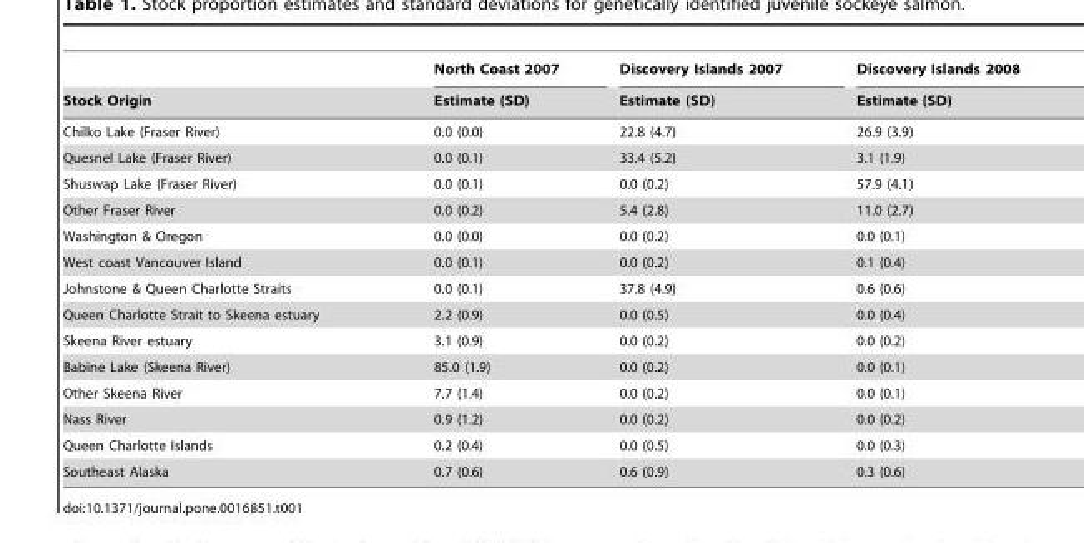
<table><thead><tr><td rowspan="2">Stock Origin</td><td rowspan="2">North Coast 2007 Estimate (SD)</td><td rowspan="2">Discovery Islands 2007 Estimate (SD)</td><td rowspan="2">Discovery Islands 2008 Estimate (SD)</td></tr><tr></tr></thead><tbody><tr><td>Chilko Lake (Fraser River)</td><td>0.0 (0.0)</td><td>22.8 (4.7)</td><td>26.9 (3.9)</td></tr><tr><td>Quesnel Lake (Fraser River)</td><td>0.0 (0.1)</td><td>33.4 (5.2)</td><td>3.1 (1.9)</td></tr><tr><td>Shuswap Lake (Fraser River)</td><td>0.0 (0.1)</td><td>0.0 (0.2)</td><td>57.9 (4.1)</td></tr><tr><td>Other Fraser River</td><td>0.0 (0.2)</td><td>5.4 (2.8)</td><td>11.0 (2.7)</td></tr><tr><td>Washington &amp; Oregon</td><td>0.0 (0.0)</td><td>0.0 (0.2)</td><td>0.0 (0.1)</td></tr><tr><td>West coast Vancouver Island</td><td>0.0 (0.1)</td><td>0.0 (0.2)</td><td>0.1 (0.4)</td></tr><tr><td>Johnstone &amp; Queen Charlotte Straits</td><td>0.0 (0.1)</td><td>37.8 (4.9)</td><td>0.6 (0.6)</td></tr><tr><td>Queen Charlotte Strait to Skeena estuary</td><td>2.2 (0.9)</td><td>0.0 (0.5)</td><td>0.0 (0.4)</td></tr><tr><td>Skeena River estuary</td><td>3.1 (0.9)</td><td>0.0 (0.2)</td><td>0.0 (0.2)</td></tr><tr><td>Babine Lake (Skeena River)</td><td>85.0 (1.9)</td><td>0.0 (0.2)</td><td>0.0 (0.1)</td></tr><tr><td>Other Skeena River</td><td>7.7 (1.4)</td><td>0.0 (0.2)</td><td>0.0 (0.1)</td></tr><tr><td>Nass River</td><td>0.9 (1.2)</td><td>0.0 (0.2)</td><td>0.0 (0.2)</td></tr><tr><td>Queen Charlotte Islands</td><td>0.2 (0.4)</td><td>0.0 (0.5)</td><td>0.0 (0.3)</td></tr><tr><td>Southeast Alaska</td><td>0.7 (0.6)</td><td>0.6 (0.9)</td><td>0.3 (0.6)</td></tr></tbody></table>